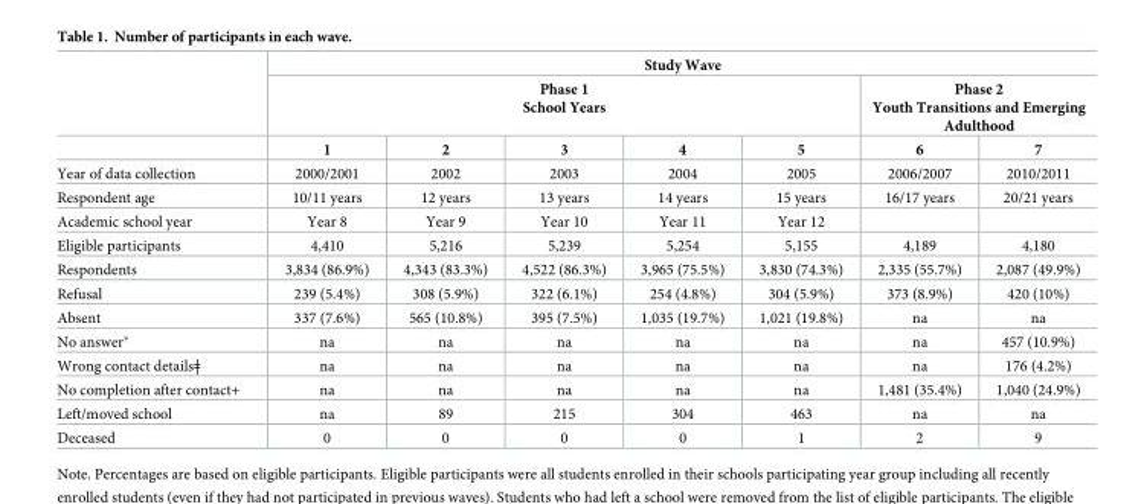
<table><thead><tr><td rowspan="3"></td><td colspan="7">Study Wave</td></tr><tr><td colspan="5">Phase 1 School Years</td><td colspan="2">Phase 2 Youth Transitions and Emerging Adulthood</td></tr><tr><td>1</td><td>2</td><td>3</td><td>4</td><td>5</td><td>6</td><td>7</td></tr></thead><tbody><tr><td>Year of data collection</td><td>2000/2001</td><td>2002</td><td>2003</td><td>2004</td><td>2005</td><td>2006/2007</td><td>2010/2011</td></tr><tr><td>Respondent age</td><td>10/11 years</td><td>12 years</td><td>13 years</td><td>14 years</td><td>15 years</td><td>16/17 years</td><td>20/21 years</td></tr><tr><td>Academic school year</td><td>Year 8</td><td>Year 9</td><td>Year 10</td><td>Year 11</td><td>Year 12</td><td></td><td></td></tr><tr><td>Eligible participants</td><td>4,410</td><td>5,216</td><td>5,239</td><td>5,254</td><td>5,155</td><td>4,189</td><td>4,180</td></tr><tr><td>Respondents</td><td>3,834 (86.9%)</td><td>4,343 (83.3%)</td><td>4,522 (86.3%)</td><td>3,965 (75.5%)</td><td>3,830 (74.3%)</td><td>2,335 (55.7%)</td><td>2,087 (49.9%)</td></tr><tr><td>Refusal</td><td>239 (5.4%)</td><td>308 (5.9%)</td><td>322 (6.1%)</td><td>254 (4.8%)</td><td>304 (5.9%)</td><td>373 (8.9%)</td><td>420 (10%)</td></tr><tr><td>Absent</td><td>337 (7.6%)</td><td>565 (10.8%)</td><td>395 (7.5%)</td><td>1,035 (19.7%)</td><td>1,021 (19.8%)</td><td>na</td><td>na</td></tr><tr><td>No answer*</td><td>na</td><td>na</td><td>na</td><td>na</td><td>na</td><td>na</td><td>457 (10.9%)</td></tr><tr><td>Wrong contact detailsǂ</td><td>na</td><td>na</td><td>na</td><td>na</td><td>na</td><td>na</td><td>176 (4.2%)</td></tr><tr><td>No completion after contact+</td><td>na</td><td>na</td><td>na</td><td>na</td><td>na</td><td>1,481 (35.4%)</td><td>1,040 (24.9%)</td></tr><tr><td>Left/moved school</td><td>na</td><td>89</td><td>215</td><td>304</td><td>463</td><td>na</td><td>na</td></tr><tr><td>Deceased</td><td>0</td><td>0</td><td>0</td><td>0</td><td>1</td><td>2</td><td>9</td></tr></tbody></table>